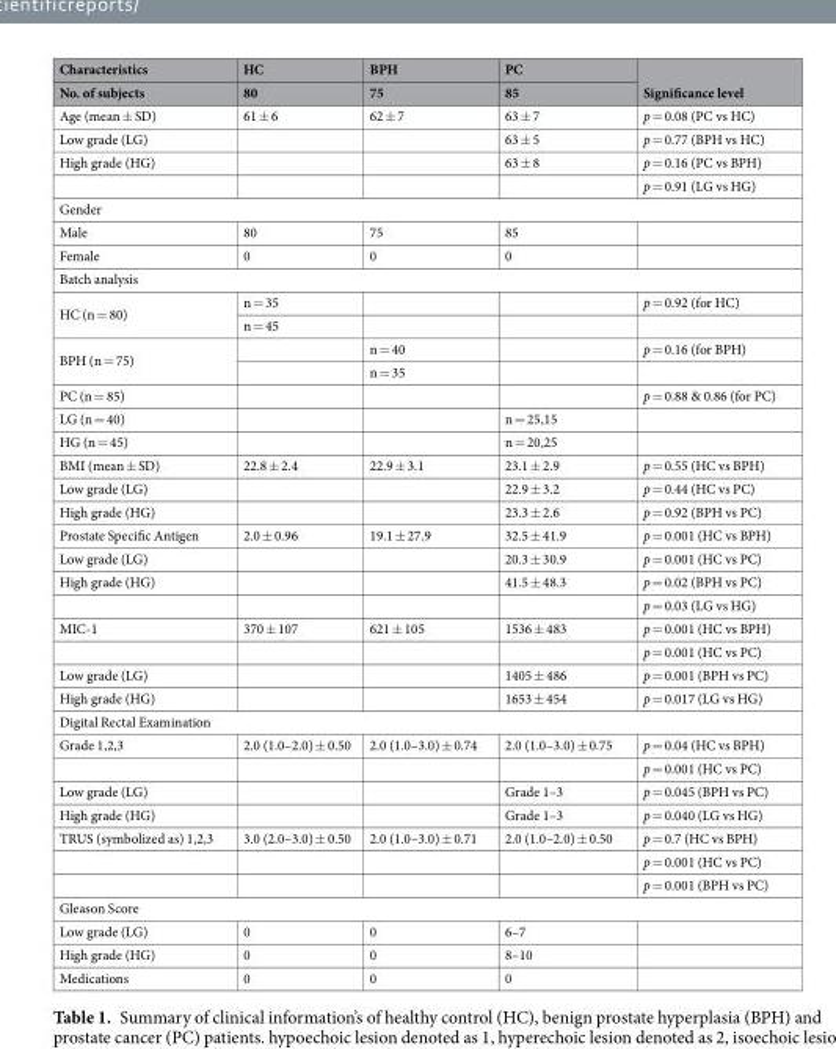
<table><thead><tr><td rowspan="2">Characteristics No. of subjects</td><td rowspan="2">HC 80</td><td rowspan="2">BPH 75</td><td rowspan="2">PC 85</td><td rowspan="2">Significance level</td></tr><tr></tr></thead><tbody><tr><td>Age (mean ± SD)</td><td>61 ± 6</td><td>62 ± 7</td><td>63 ± 7</td><td>p = 0.08 (PC vs HC)</td></tr><tr><td>Low grade (LG)</td><td></td><td></td><td>63 ± 5</td><td>p = 0.77 (BPH vs HC)</td></tr><tr><td rowspan="2">High grade (HG)</td><td></td><td></td><td>63 ± 8</td><td>p = 0.16 (PC vs BPH)</td></tr><tr><td></td><td></td><td></td><td>p = 0.91 (LG vs HG)</td></tr><tr><td colspan="5">Gender</td></tr><tr><td>Male</td><td>80</td><td>75</td><td>85</td><td></td></tr><tr><td>Female</td><td>0</td><td>0</td><td>0</td><td></td></tr><tr><td colspan="5">Batch analysis</td></tr><tr><td rowspan="2">HC (n = 80)</td><td>n = 35</td><td></td><td></td><td>p = 0.92 (for HC)</td></tr><tr><td>n = 45</td><td></td><td></td><td></td></tr><tr><td rowspan="2">BPH (n = 75)</td><td></td><td>n = 40</td><td></td><td>p = 0.16 (for BPH)</td></tr><tr><td></td><td>n = 35</td><td></td><td></td></tr><tr><td>PC (n = 85)</td><td></td><td></td><td></td><td>p = 0.88 &amp; 0.86 (for PC)</td></tr><tr><td>LG (n = 40)</td><td></td><td></td><td>n = 25,15</td><td></td></tr><tr><td>HG (n = 45)</td><td></td><td></td><td>n = 20,25</td><td></td></tr><tr><td>BMI (mean ± SD)</td><td>22.8 ± 2.4</td><td>22.9 ± 3.1</td><td>23.1 ± 2.9</td><td>p = 0.55 (HC vs BPH)</td></tr><tr><td>Low grade (LG)</td><td></td><td></td><td>22.9 ± 3.2</td><td>p = 0.44 (HC vs PC)</td></tr><tr><td>High grade (HG)</td><td></td><td></td><td>23.3 ± 2.6</td><td>p = 0.92 (BPH vs PC)</td></tr><tr><td>Prostate Specific Antigen</td><td>2.0 ± 0.96</td><td>19.1 ± 27.9</td><td>32.5 ± 41.9</td><td>p = 0.001 (HC vs BPH)</td></tr><tr><td>Low grade (LG)</td><td></td><td></td><td>20.3 ± 30.9</td><td>p = 0.001 (HC vs PC)</td></tr><tr><td rowspan="2">High grade (HG)</td><td></td><td></td><td>41.5 ± 48.3</td><td>p = 0.02 (BPH vs PC)</td></tr><tr><td></td><td></td><td></td><td>p = 0.03 (LG vs HG)</td></tr><tr><td rowspan="2">MIC-1</td><td>370 ± 107</td><td>621 ± 105</td><td>1536 ± 483</td><td>p = 0.001 (HC vs BPH)</td></tr><tr><td></td><td></td><td></td><td>p = 0.001 (HC vs PC)</td></tr><tr><td>Low grade (LG)</td><td></td><td></td><td>1405 ± 486</td><td>p = 0.001 (BPH vs PC)</td></tr><tr><td>High grade (HG)</td><td></td><td></td><td>1653 ± 454</td><td>p = 0.017 (LG vs HG)</td></tr><tr><td colspan="5">Digital Rectal Examination</td></tr><tr><td rowspan="2">Grade 1,2,3</td><td>2.0 (1.0–2.0) ± 0.50</td><td>2.0 (1.0–3.0) ± 0.74</td><td>2.0 (1.0–3.0) ± 0.75</td><td>p = 0.04 (HC vs BPH)</td></tr><tr><td></td><td></td><td></td><td>p = 0.001 (HC vs PC)</td></tr><tr><td>Low grade (LG)</td><td></td><td></td><td>Grade 1–3</td><td>p = 0.045 (BPH vs PC)</td></tr><tr><td>High grade (HG)</td><td></td><td></td><td>Grade 1–3</td><td>p = 0.040 (LG vs HG)</td></tr><tr><td rowspan="3">TRUS (symbolized as) 1,2,3</td><td>3.0 (2.0–3.0) ± 0.50</td><td>2.0 (1.0–3.0) ± 0.71</td><td>2.0 (1.0–2.0) ± 0.50</td><td>p = 0.7 (HC vs BPH)</td></tr><tr><td></td><td></td><td></td><td>p = 0.001 (HC vs PC)</td></tr><tr><td></td><td></td><td></td><td>p = 0.001 (BPH vs PC)</td></tr><tr><td colspan="5">Gleason Score</td></tr><tr><td>Low grade (LG)</td><td>0</td><td>0</td><td>6–7</td><td></td></tr><tr><td>High grade (HG)</td><td>0</td><td>0</td><td>8–10</td><td></td></tr><tr><td>Medications</td><td>0</td><td>0</td><td>0</td><td></td></tr></tbody></table>